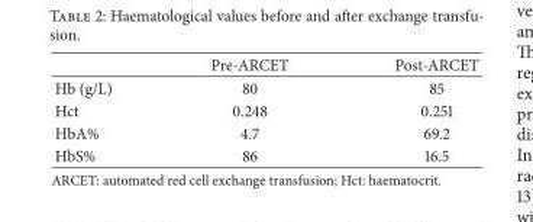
<table><thead><tr><td></td><td>Pre-ARCET</td><td>Post-ARCET</td></tr></thead><tbody><tr><td>Hb (g/L)</td><td>80</td><td>85</td></tr><tr><td>Hct</td><td>0.248</td><td>0.251</td></tr><tr><td>HbA%</td><td>4.7</td><td>69.2</td></tr><tr><td>HbS%</td><td>86</td><td>16.5</td></tr></tbody></table>